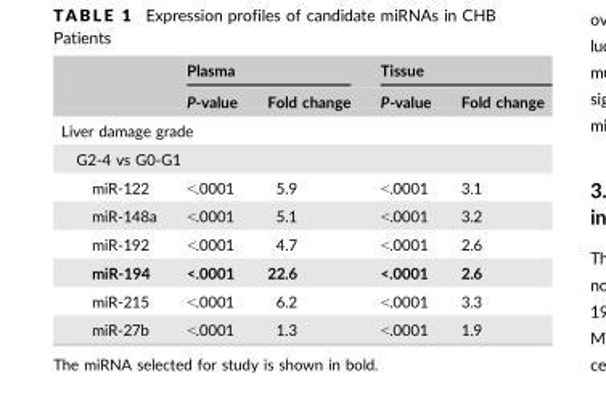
<table><thead><tr><td rowspan="2"></td><td colspan="2">Plasma</td><td colspan="2">Tissue</td></tr><tr><td>P-value</td><td>Fold change</td><td>P-value</td><td>Fold change</td></tr></thead><tbody><tr><td colspan="5">Liver damage grade</td></tr><tr><td colspan="5">G2-4 vs G0-G1</td></tr><tr><td>miR-122</td><td>&lt;.0001</td><td>5.9</td><td>&lt;.0001</td><td>3.1</td></tr><tr><td>miR-148a</td><td>&lt;.0001</td><td>5.1</td><td>&lt;.0001</td><td>3.2</td></tr><tr><td>miR-192</td><td>&lt;.0001</td><td>4.7</td><td>&lt;.0001</td><td>2.6</td></tr><tr><td>miR-194</td><td>&lt;.0001</td><td>22.6</td><td>&lt;.0001</td><td>2.6</td></tr><tr><td>miR-215</td><td>&lt;.0001</td><td>6.2</td><td>&lt;.0001</td><td>3.3</td></tr><tr><td>miR-27b</td><td>&lt;.0001</td><td>1.3</td><td>&lt;.0001</td><td>1.9</td></tr></tbody></table>